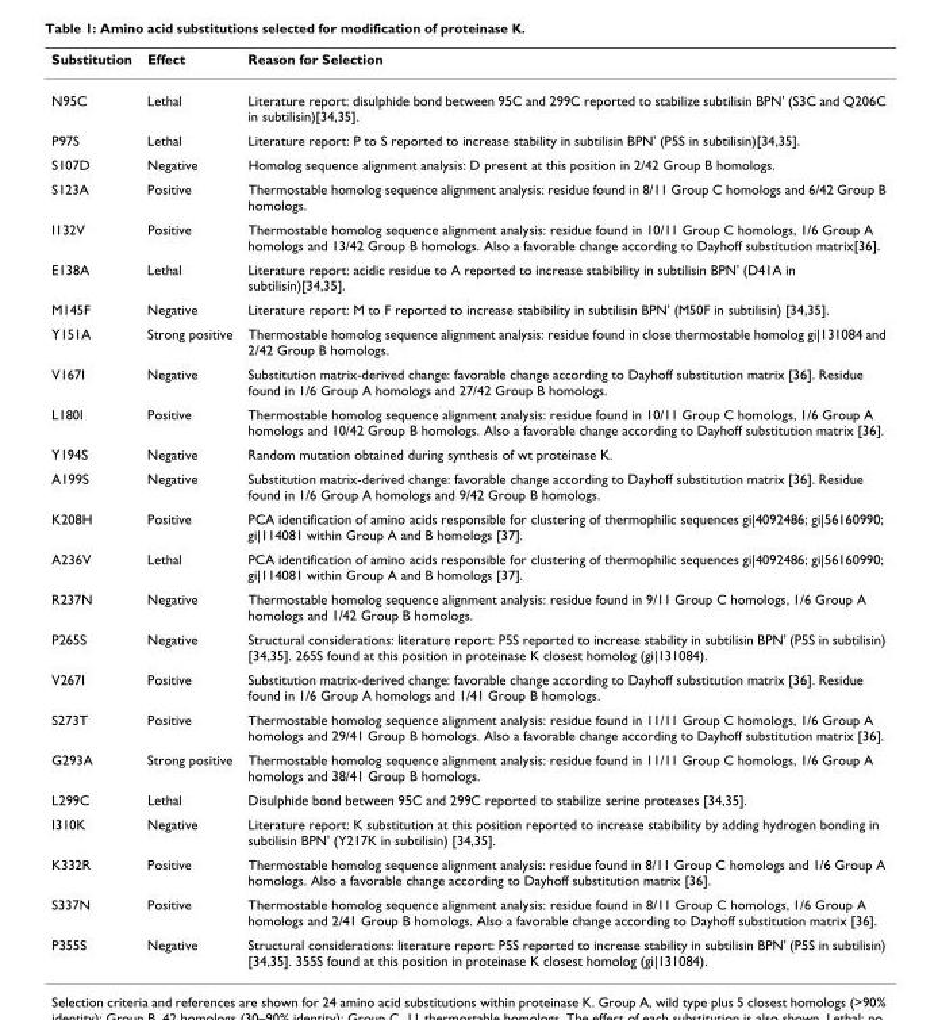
<table><thead><tr><td>Substitution</td><td>Effect</td><td>Reason for Selection</td></tr></thead><tbody><tr><td>N95C</td><td>Lethal</td><td>Literature report: disulphide bond between 95C and 299C reported to stabilize subtilisin BPN&#x27; (S3C and Q206C in subtilisin)[34,35].</td></tr><tr><td>P97S</td><td>Lethal</td><td>Literature report: P to S reported to increase stability in subtilisin BPN&#x27; (P5S in subtilisin)[34,35].</td></tr><tr><td>S107D</td><td>Negative</td><td>Homolog sequence alignment analysis: D present at this position in 2/42 Group B homologs.</td></tr><tr><td>S123A</td><td>Positive</td><td>Thermostable homolog sequence alignment analysis: residue found in 8/11 Group C homologs and 6/42 Group B homologs.</td></tr><tr><td>I132V</td><td>Positive</td><td>Thermostable homolog sequence alignment analysis: residue found in 10/11 Group C homologs, 1/6 Group A homologs and 13/42 Group B homologs. Also a favorable change according to Dayhoff substitution matrix[36].</td></tr><tr><td>E138A</td><td>Lethal</td><td>Literature report: acidic residue to A reported to increase stabibility in subtilisin BPN&#x27; (D41A in subtilisin)[34,35].</td></tr><tr><td>M145F</td><td>Negative</td><td>Literature report: M to F reported to increase stabibility in subtilisin BPN&#x27; (M50F in subtilisin) [34,35].</td></tr><tr><td>Y151A</td><td>Strong positive</td><td>Thermostable homolog sequence alignment analysis: residue found in close thermostable homolog gi|131084 and 2/42 Group B homologs.</td></tr><tr><td>V167I</td><td>Negative</td><td>Substitution matrix-derived change: favorable change according to Dayhoff substitution matrix [36]. Residue found in 1/6 Group A homologs and 27/42 Group B homologs.</td></tr><tr><td>L180I</td><td>Positive</td><td>Thermostable homolog sequence alignment analysis: residue found in 10/11 Group C homologs, 1/6 Group A homologs and 10/42 Group B homologs. Also a favorable change according to Dayhoff substitution matrix [36].</td></tr><tr><td>Y194S</td><td>Negative</td><td>Random mutation obtained during synthesis of wt proteinase K.</td></tr><tr><td>A199S</td><td>Negative</td><td>Substitution matrix-derived change: favorable change according to Dayhoff substitution matrix [36]. Residue found in 1/6 Group A homologs and 9/42 Group B homologs.</td></tr><tr><td>K208H</td><td>Positive</td><td>PCA identification of amino acids responsible for clustering of thermophilic sequences gi|4092486; gi|56160990; gi|114081 within Group A and B homologs [37].</td></tr><tr><td>A236V</td><td>Lethal</td><td>PCA identification of amino acids responsible for clustering of thermophilic sequences gi|4092486; gi|56160990; gi|114081 within Group A and B homologs [37].</td></tr><tr><td>R237N</td><td>Negative</td><td>Thermostable homolog sequence alignment analysis: residue found in 9/11 Group C homologs, 1/6 Group A homologs and 1/42 Group B homologs.</td></tr><tr><td>P265S</td><td>Negative</td><td>Structural considerations: literature report: P5S reported to increase stability in subtilisin BPN&#x27; (P5S in subtilisin) [34,35]. 265S found at this position in proteinase K closest homolog (gi|131084).</td></tr><tr><td>V267I</td><td>Positive</td><td>Substitution matrix-derived change: favorable change according to Dayhoff substitution matrix [36]. Residue found in 1/6 Group A homologs and 1/41 Group B homologs.</td></tr><tr><td>S273T</td><td>Positive</td><td>Thermostable homolog sequence alignment analysis: residue found in 11/11 Group C homologs, 1/6 Group A homologs and 29/41 Group B homologs. Also a favorable change according to Dayhoff substitution matrix [36].</td></tr><tr><td>G293A</td><td>Strong positive</td><td>Thermostable homolog sequence alignment analysis: residue found in 11/11 Group C homologs, 1/6 Group A homologs and 38/41 Group B homologs.</td></tr><tr><td>L299C</td><td>Lethal</td><td>Disulphide bond between 95C and 299C reported to stabilize serine proteases [34,35].</td></tr><tr><td>I310K</td><td>Negative</td><td>Literature report: K substitution at this position reported to increase stabibility by adding hydrogen bonding in subtilisin BPN&#x27; (Y217K in subtilisin) [34,35].</td></tr><tr><td>K332R</td><td>Positive</td><td>Thermostable homolog sequence alignment analysis: residue found in 8/11 Group C homologs and 1/6 Group A homologs. Also a favorable change according to Dayhoff substitution matrix [36].</td></tr><tr><td>S337N</td><td>Positive</td><td>Thermostable homolog sequence alignment analysis: residue found in 8/11 Group C homologs, 1/6 Group A homologs and 2/41 Group B homologs. Also a favorable change according to Dayhoff substitution matrix [36].</td></tr><tr><td>P355S</td><td>Negative</td><td>Structural considerations: literature report: P5S reported to increase stability in subtilisin BPN&#x27; (P5S in subtilisin) [34,35]. 355S found at this position in proteinase K closest homolog (gi|131084).</td></tr></tbody></table>